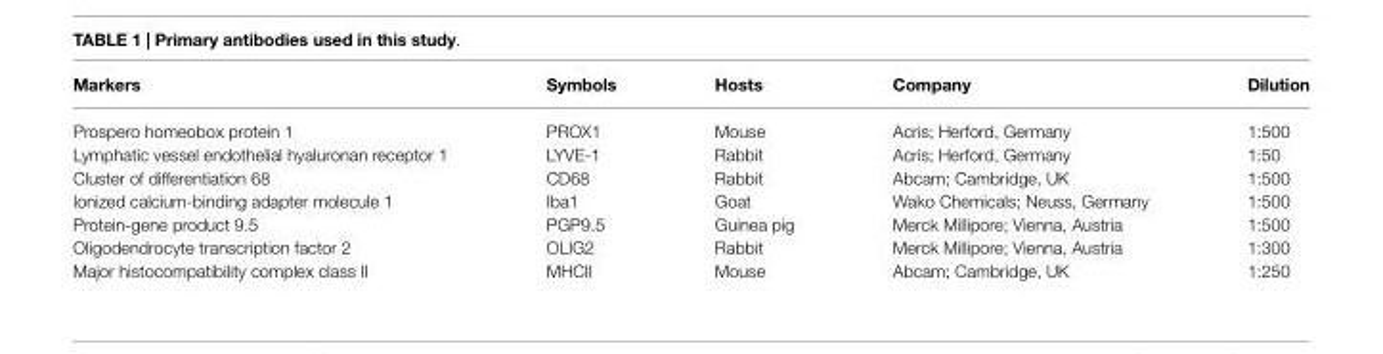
<table><thead><tr><td>Markers</td><td>Symbols</td><td>Hosts</td><td>Company</td><td>Dilution</td></tr></thead><tbody><tr><td>Prospero homeobox protein 1</td><td>PROX1</td><td>Mouse</td><td>Acris; Herford, Germany</td><td>1:500</td></tr><tr><td>Lymphatic vessel endothelial hyaluronan receptor 1</td><td>LYVE-1</td><td>Rabbit</td><td>Acris; Herford, Germany</td><td>1:50</td></tr><tr><td>Cluster of differentiation 68</td><td>CD68</td><td>Rabbit</td><td>Abcam; Cambridge, UK</td><td>1:500</td></tr><tr><td>Ionized calcium-binding adapter molecule 1</td><td>Iba1</td><td>Goat</td><td>Wako Chemicals; Neuss, Germany</td><td>1:500</td></tr><tr><td>Protein-gene product 9.5</td><td>PGP9.5</td><td>Guinea pig</td><td>Merck Millipore; Vienna, Austria</td><td>1:500</td></tr><tr><td>Oligodendrocyte transcription factor 2</td><td>OLIG2</td><td>Rabbit</td><td>Merck Millipore; Vienna, Austria</td><td>1:300</td></tr><tr><td>Major histocompatibility complex class II</td><td>MHCII</td><td>Mouse</td><td>Abcam; Cambridge, UK</td><td>1:250</td></tr></tbody></table>